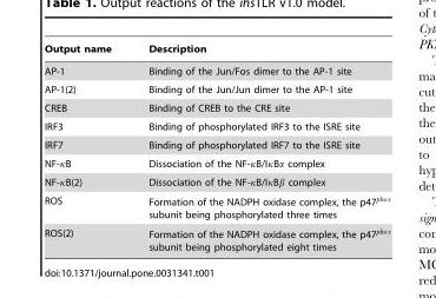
<table><thead><tr><td>Output name</td><td>Description</td></tr></thead><tbody><tr><td>AP-1</td><td>Binding of the Jun/Fos dimer to the AP-1 site</td></tr><tr><td>AP-1(2)</td><td>Binding of the Jun/Jun dimer to the AP-1 site</td></tr><tr><td>CREB</td><td>Binding of CREB to the CRE site</td></tr><tr><td>IRF3</td><td>Binding of phosphorylated IRF3 to the ISRE site</td></tr><tr><td>IRF7</td><td>Binding of phosphorylated IRF7 to the ISRE site</td></tr><tr><td>NF-kB</td><td>Dissociation of the NF-kB/IkBa complex</td></tr><tr><td>NF-kB(2)</td><td>Dissociation of the NF-kB/IkBb complex</td></tr><tr><td>ROS</td><td>Formation of the NADPH oxidase complex, the p47phox subunit being phosphorylated three times</td></tr><tr><td>ROS(2)</td><td>Formation of the NADPH oxidase complex, the p47phox subunit being phosphorylated eight times</td></tr></tbody></table>